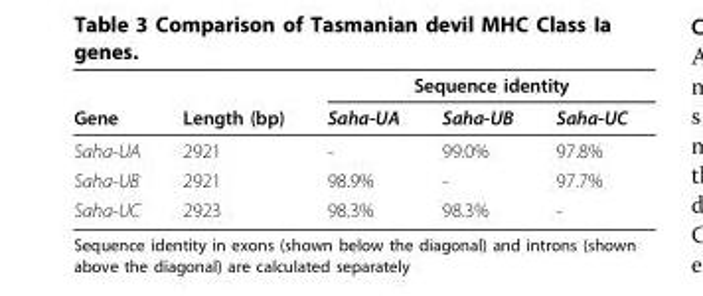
<table><thead><tr><td rowspan="2">Gene</td><td rowspan="2">Length (bp)</td><td colspan="3">Sequence identity</td></tr><tr><td>Saha-UA</td><td>Saha-UB</td><td>Saha-UC</td></tr></thead><tbody><tr><td>Saha-UA</td><td>2921</td><td>-</td><td>99.0%</td><td>97.8%</td></tr><tr><td>Saha-UB</td><td>2921</td><td>98.9%</td><td>-</td><td>97.7%</td></tr><tr><td>Saha-UC</td><td>2923</td><td>98.3%</td><td>98.3%</td><td>-</td></tr></tbody></table>